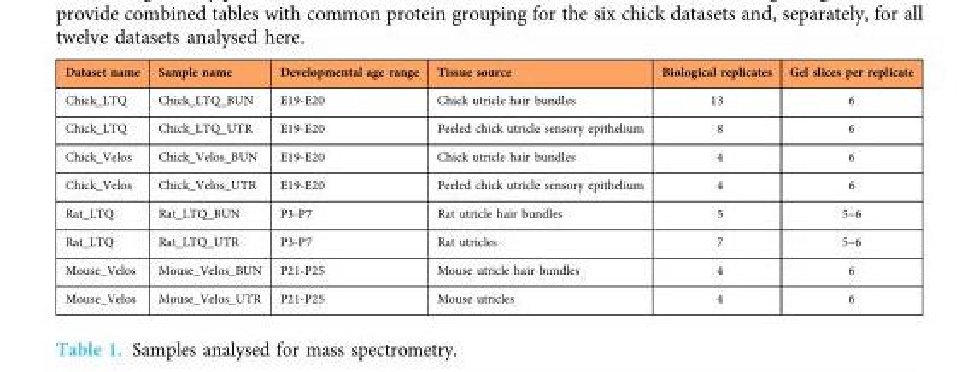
<table><thead><tr><td>Dataset name</td><td>Sample name</td><td>Developmental age range</td><td>Tissue source</td><td>Biological replicates</td><td>Gel slices per replicate</td></tr></thead><tbody><tr><td>Chick_LTQ</td><td>Chick_LTQ_BUN</td><td>E19-E20</td><td>Chick utricle hair bundles</td><td>13</td><td>6</td></tr><tr><td>Chick_LTQ</td><td>Chick_LTQ_UTR</td><td>E19-E20</td><td>Peeled chick utricle sensory epithelium</td><td>8</td><td>6</td></tr><tr><td>Chick_Velos</td><td>Chick_Velos_BUN</td><td>E19-E20</td><td>Chick utricle hair bundles</td><td>4</td><td>6</td></tr><tr><td>Chick_Velos</td><td>Chick_Velos_UTR</td><td>E19-E20</td><td>Peeled chick utricle sensory epithelium</td><td>4</td><td>6</td></tr><tr><td>Rat_LTQ</td><td>Rat_LTQ_BUN</td><td>P3-P7</td><td>Rat utricle hair bundles</td><td>5</td><td>5–6</td></tr><tr><td>Rat_LTQ</td><td>Rat_LTQ_UTR</td><td>P3-P7</td><td>Rat utricles</td><td>7</td><td>5–6</td></tr><tr><td>Mouse_Velos</td><td>Mouse_Velos_BUN</td><td>P21-P25</td><td>Mouse utricle hair bundles</td><td>4</td><td>6</td></tr><tr><td>Mouse_Velos</td><td>Mouse_Velos_UTR</td><td>P21-P25</td><td>Mouse utricles</td><td>4</td><td>6</td></tr></tbody></table>